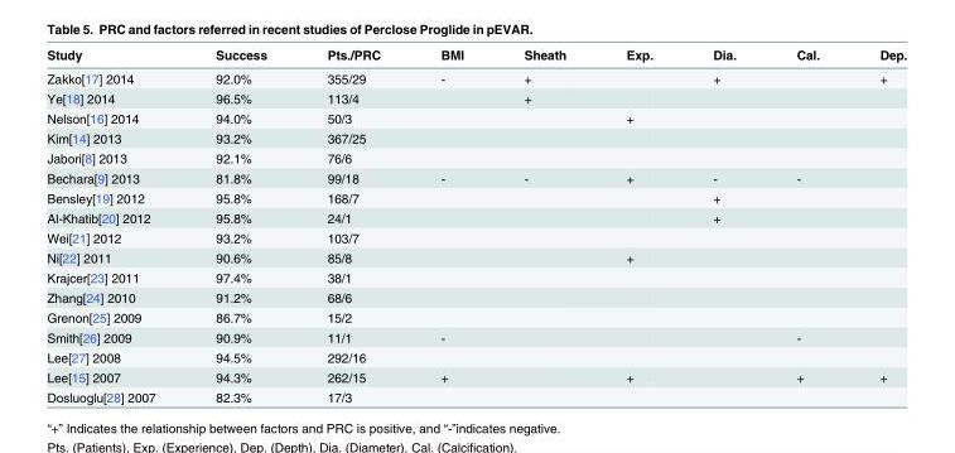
<table><thead><tr><td>Study</td><td>Success</td><td>Pts./PRC</td><td>BMI</td><td>Sheath</td><td>Exp.</td><td>Dia.</td><td>Cal.</td><td>Dep.</td></tr></thead><tbody><tr><td>Zakko[17] 2014</td><td>92.0%</td><td>355/29</td><td>-</td><td>+</td><td></td><td>+</td><td></td><td>+</td></tr><tr><td>Ye[18] 2014</td><td>96.5%</td><td>113/4</td><td></td><td>+</td><td></td><td></td><td></td><td></td></tr><tr><td>Nelson[16] 2014</td><td>94.0%</td><td>50/3</td><td></td><td></td><td>+</td><td></td><td></td><td></td></tr><tr><td>Kim[14] 2013</td><td>93.2%</td><td>367/25</td><td></td><td></td><td></td><td></td><td></td><td></td></tr><tr><td>Jabori[8] 2013</td><td>92.1%</td><td>76/6</td><td></td><td></td><td></td><td></td><td></td><td></td></tr><tr><td>Bechara[9] 2013</td><td>81.8%</td><td>99/18</td><td>-</td><td>-</td><td>+</td><td>-</td><td>-</td><td></td></tr><tr><td>Bensley[19] 2012</td><td>95.8%</td><td>168/7</td><td></td><td></td><td></td><td>+</td><td></td><td></td></tr><tr><td>Al-Khatib[20] 2012</td><td>95.8%</td><td>24/1</td><td></td><td></td><td></td><td>+</td><td></td><td></td></tr><tr><td>Wei[21] 2012</td><td>93.2%</td><td>103/7</td><td></td><td></td><td></td><td></td><td></td><td></td></tr><tr><td>Ni[22] 2011</td><td>90.6%</td><td>85/8</td><td></td><td></td><td>+</td><td></td><td></td><td></td></tr><tr><td>Krajcer[23] 2011</td><td>97.4%</td><td>38/1</td><td></td><td></td><td></td><td></td><td></td><td></td></tr><tr><td>Zhang[24] 2010</td><td>91.2%</td><td>68/6</td><td></td><td></td><td></td><td></td><td></td><td></td></tr><tr><td>Grenon[25] 2009</td><td>86.7%</td><td>15/2</td><td></td><td></td><td></td><td></td><td></td><td></td></tr><tr><td>Smith[26] 2009</td><td>90.9%</td><td>11/1</td><td>-</td><td></td><td></td><td></td><td>-</td><td></td></tr><tr><td>Lee[27] 2008</td><td>94.5%</td><td>292/16</td><td></td><td></td><td></td><td></td><td></td><td></td></tr><tr><td>Lee[15] 2007</td><td>94.3%</td><td>262/15</td><td>+</td><td></td><td>+</td><td></td><td>+</td><td>+</td></tr><tr><td>Dosluoglu[28] 2007</td><td>82.3%</td><td>17/3</td><td></td><td></td><td></td><td></td><td></td><td></td></tr></tbody></table>